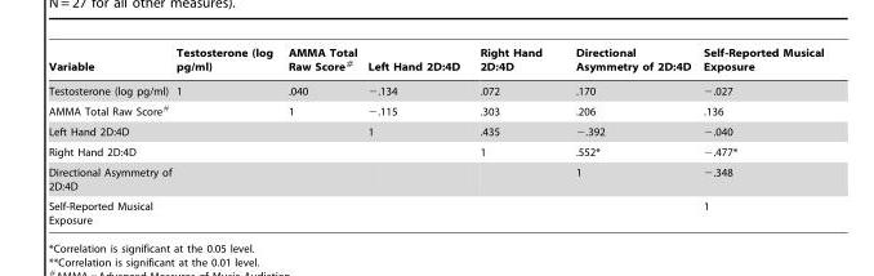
<table><thead><tr><td>Variable</td><td>Testosterone (log pg/ml)</td><td>AMMA Total Raw Score#</td><td>Left Hand 2D:4D</td><td>Right Hand 2D:4D</td><td>Directional Asymmetry of 2D:4D</td><td>Self-Reported Musical Exposure</td></tr></thead><tbody><tr><td>Testosterone (log pg/ml)</td><td>1</td><td>.040</td><td>−.134</td><td>.072</td><td>.170</td><td>−.027</td></tr><tr><td>AMMA Total Raw Score#</td><td></td><td>1</td><td>−.115</td><td>.303</td><td>.206</td><td>.136</td></tr><tr><td>Left Hand 2D:4D</td><td></td><td></td><td>1</td><td>.435</td><td>−.392</td><td>−.040</td></tr><tr><td>Right Hand 2D:4D</td><td></td><td></td><td></td><td>1</td><td>.552*</td><td>−.477*</td></tr><tr><td>Directional Asymmetry of 2D:4D</td><td></td><td></td><td></td><td></td><td>1</td><td>−.348</td></tr><tr><td>Self-Reported Musical Exposure</td><td></td><td></td><td></td><td></td><td></td><td>1</td></tr></tbody></table>